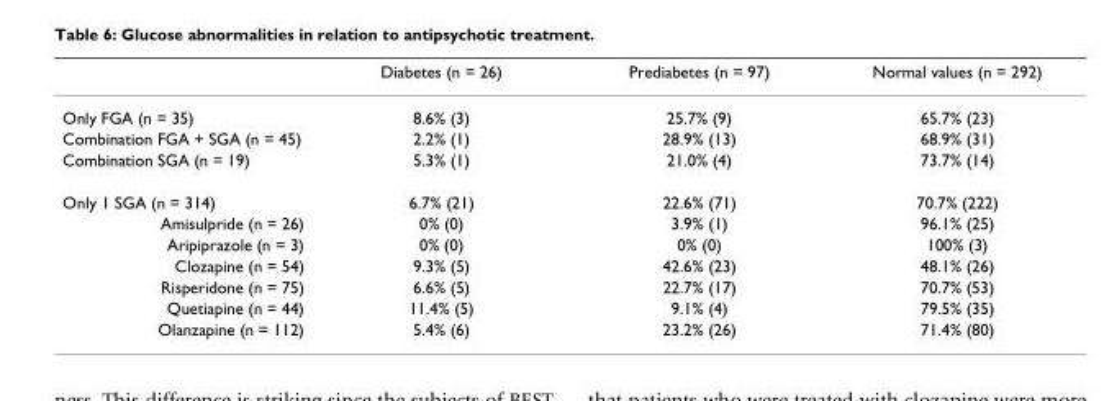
<table><thead><tr><td></td><td>Diabetes (n = 26)</td><td>Prediabetes (n = 97)</td><td>Normal values (n = 292)</td></tr></thead><tbody><tr><td>Only FGA (n = 35)</td><td>8.6% (3)</td><td>25.7% (9)</td><td>65.7% (23)</td></tr><tr><td>Combination FGA + SGA (n = 45)</td><td>2.2% (1)</td><td>28.9% (13)</td><td>68.9% (31)</td></tr><tr><td>Combination SGA (n = 19)</td><td>5.3% (1)</td><td>21.0% (4)</td><td>73.7% (14)</td></tr><tr><td>Only 1 SGA (n = 314)</td><td>6.7% (21)</td><td>22.6% (71)</td><td>70.7% (222)</td></tr><tr><td>Amisulpride (n = 26)</td><td>0% (0)</td><td>3.9% (1)</td><td>96.1% (25)</td></tr><tr><td>Aripiprazole (n = 3)</td><td>0% (0)</td><td>0% (0)</td><td>100% (3)</td></tr><tr><td>Clozapine (n = 54)</td><td>9.3% (5)</td><td>42.6% (23)</td><td>48.1% (26)</td></tr><tr><td>Risperidone (n = 75)</td><td>6.6% (5)</td><td>22.7% (17)</td><td>70.7% (53)</td></tr><tr><td>Quetiapine (n = 44)</td><td>11.4% (5)</td><td>9.1% (4)</td><td>79.5% (35)</td></tr><tr><td>Olanzapine (n = 112)</td><td>5.4% (6)</td><td>23.2% (26)</td><td>71.4% (80)</td></tr></tbody></table>